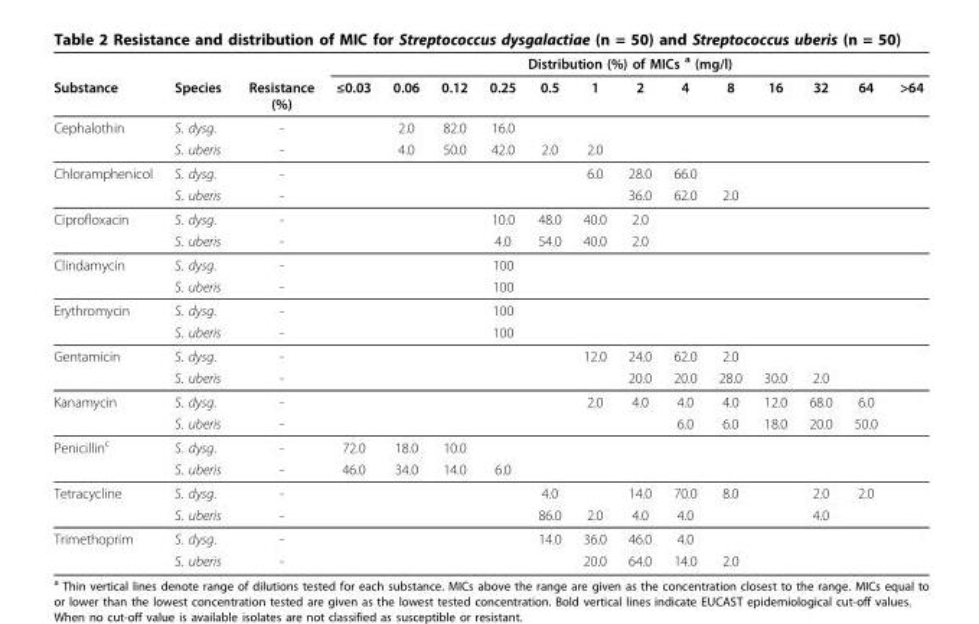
<table><thead><tr><td rowspan="2">Substance</td><td rowspan="2">Species</td><td rowspan="2">Resistance (%)</td><td colspan="13">Distribution (%) of MICs <sup>a</sup> (mg/l)</td></tr><tr><td>≤0.03</td><td>0.06</td><td>0.12</td><td>0.25</td><td>0.5</td><td>1</td><td>2</td><td>4</td><td>8</td><td>16</td><td>32</td><td>64</td><td>&gt;64</td></tr></thead><tbody><tr><td rowspan="2">Cephalothin</td><td>S. dysg.</td><td>-</td><td></td><td>2.0</td><td>82.0</td><td>16.0</td><td></td><td></td><td></td><td></td><td></td><td></td><td></td><td></td><td></td></tr><tr><td>S. uberis</td><td>-</td><td></td><td>4.0</td><td>50.0</td><td>42.0</td><td>2.0</td><td>2.0</td><td></td><td></td><td></td><td></td><td></td><td></td><td></td></tr><tr><td rowspan="2">Chloramphenicol</td><td>S. dysg.</td><td>-</td><td></td><td></td><td></td><td></td><td></td><td>6.0</td><td>28.0</td><td>66.0</td><td></td><td></td><td></td><td></td><td></td></tr><tr><td>S. uberis</td><td>-</td><td></td><td></td><td></td><td></td><td></td><td></td><td>36.0</td><td>62.0</td><td>2.0</td><td></td><td></td><td></td><td></td></tr><tr><td rowspan="2">Ciprofloxacin</td><td>S. dysg.</td><td>-</td><td></td><td></td><td></td><td>10.0</td><td>48.0</td><td>40.0</td><td>2.0</td><td></td><td></td><td></td><td></td><td></td><td></td></tr><tr><td>S. uberis</td><td>-</td><td></td><td></td><td></td><td>4.0</td><td>54.0</td><td>40.0</td><td>2.0</td><td></td><td></td><td></td><td></td><td></td><td></td></tr><tr><td rowspan="2">Clindamycin</td><td>S. dysg.</td><td>-</td><td></td><td></td><td></td><td>100</td><td></td><td></td><td></td><td></td><td></td><td></td><td></td><td></td><td></td></tr><tr><td>S. uberis</td><td>-</td><td></td><td></td><td></td><td>100</td><td></td><td></td><td></td><td></td><td></td><td></td><td></td><td></td><td></td></tr><tr><td rowspan="2">Erythromycin</td><td>S. dysg.</td><td>-</td><td></td><td></td><td></td><td>100</td><td></td><td></td><td></td><td></td><td></td><td></td><td></td><td></td><td></td></tr><tr><td>S. uberis</td><td>-</td><td></td><td></td><td></td><td>100</td><td></td><td></td><td></td><td></td><td></td><td></td><td></td><td></td><td></td></tr><tr><td rowspan="2">Gentamicin</td><td>S. dysg.</td><td>-</td><td></td><td></td><td></td><td></td><td></td><td>12.0</td><td>24.0</td><td>62.0</td><td>2.0</td><td></td><td></td><td></td><td></td></tr><tr><td>S. uberis</td><td>-</td><td></td><td></td><td></td><td></td><td></td><td></td><td>20.0</td><td>20.0</td><td>28.0</td><td>30.0</td><td>2.0</td><td></td><td></td></tr><tr><td rowspan="2">Kanamycin</td><td>S. dysg.</td><td>-</td><td></td><td></td><td></td><td></td><td></td><td>2.0</td><td>4.0</td><td>4.0</td><td>4.0</td><td>12.0</td><td>68.0</td><td>6.0</td><td></td></tr><tr><td>S. uberis</td><td>-</td><td></td><td></td><td></td><td></td><td></td><td></td><td></td><td>6.0</td><td>6.0</td><td>18.0</td><td>20.0</td><td>50.0</td><td></td></tr><tr><td rowspan="2">Penicillin<sup>c</sup></td><td>S. dysg.</td><td>-</td><td>72.0</td><td>18.0</td><td>10.0</td><td></td><td></td><td></td><td></td><td></td><td></td><td></td><td></td><td></td><td></td></tr><tr><td>S. uberis</td><td>-</td><td>46.0</td><td>34.0</td><td>14.0</td><td>6.0</td><td></td><td></td><td></td><td></td><td></td><td></td><td></td><td></td><td></td></tr><tr><td rowspan="2">Tetracycline</td><td>S. dysg.</td><td>-</td><td></td><td></td><td></td><td></td><td>4.0</td><td></td><td>14.0</td><td>70.0</td><td>8.0</td><td></td><td>2.0</td><td>2.0</td><td></td></tr><tr><td>S. uberis</td><td>-</td><td></td><td></td><td></td><td></td><td>86.0</td><td>2.0</td><td>4.0</td><td>4.0</td><td></td><td></td><td>4.0</td><td></td><td></td></tr><tr><td rowspan="2">Trimethoprim</td><td>S. dysg.</td><td>-</td><td></td><td></td><td></td><td></td><td>14.0</td><td>36.0</td><td>46.0</td><td>4.0</td><td></td><td></td><td></td><td></td><td></td></tr><tr><td>S. uberis</td><td>-</td><td></td><td></td><td></td><td></td><td></td><td>20.0</td><td>64.0</td><td>14.0</td><td>2.0</td><td></td><td></td><td></td><td></td></tr></tbody></table>